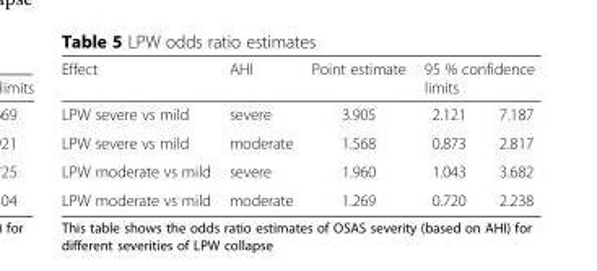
<table><thead><tr><td rowspan="2">Effect LPW severe vs mild</td><td rowspan="2">AHI severe</td><td rowspan="2">Point estimate 3.905</td><td colspan="2">95 % confidence limits</td></tr><tr><td>2.121</td><td>7.187</td></tr></thead><tbody><tr><td>LPW severe vs mild</td><td>moderate</td><td>1.568</td><td>0.873</td><td>2.817</td></tr><tr><td>LPW moderate vs mild</td><td>severe</td><td>1.960</td><td>1.043</td><td>3.682</td></tr><tr><td>LPW moderate vs mild</td><td>moderate</td><td>1.269</td><td>0.720</td><td>2.238</td></tr></tbody></table>